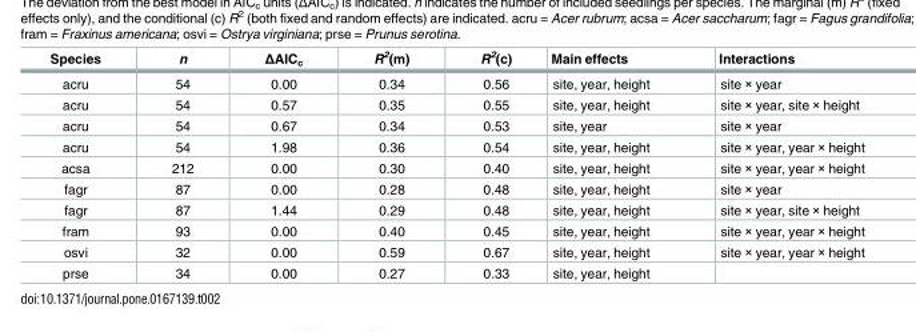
<table><thead><tr><td>Species</td><td>n</td><td>ΔAIC<sub>c</sub></td><td>R<sup>2</sup>(m)</td><td>R<sup>2</sup>(c)</td><td>Main effects</td><td>Interactions</td></tr></thead><tbody><tr><td>acru</td><td>54</td><td>0.00</td><td>0.34</td><td>0.56</td><td>site, year, height</td><td>site × year</td></tr><tr><td>acru</td><td>54</td><td>0.57</td><td>0.35</td><td>0.55</td><td>site, year, height</td><td>site × year, site × height</td></tr><tr><td>acru</td><td>54</td><td>0.67</td><td>0.34</td><td>0.53</td><td>site, year</td><td>site × year</td></tr><tr><td>acru</td><td>54</td><td>1.98</td><td>0.36</td><td>0.54</td><td>site, year, height</td><td>site × year, year × height</td></tr><tr><td>acsa</td><td>212</td><td>0.00</td><td>0.30</td><td>0.40</td><td>site, year, height</td><td>site × year, year × height</td></tr><tr><td>fagr</td><td>87</td><td>0.00</td><td>0.28</td><td>0.48</td><td>site, year, height</td><td>site × year</td></tr><tr><td>fagr</td><td>87</td><td>1.44</td><td>0.29</td><td>0.48</td><td>site, year, height</td><td>site × year, site × height</td></tr><tr><td>fram</td><td>93</td><td>0.00</td><td>0.40</td><td>0.45</td><td>site, year, height</td><td>site × year, year × height</td></tr><tr><td>osvi</td><td>32</td><td>0.00</td><td>0.59</td><td>0.67</td><td>site, year, height</td><td>site × year, year × height</td></tr><tr><td>prse</td><td>34</td><td>0.00</td><td>0.27</td><td>0.33</td><td>site, year, height</td><td></td></tr></tbody></table>